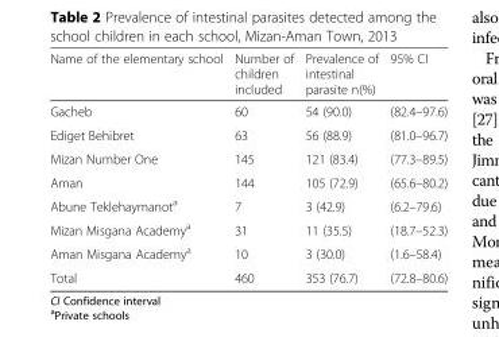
<table><thead><tr><td>Name of the elementary school</td><td>Number of children included</td><td>Prevalence of intestinal parasite n(%)</td><td>95% CI</td></tr></thead><tbody><tr><td>Gacheb</td><td>60</td><td>54 (90.0)</td><td>(82.4–97.6)</td></tr><tr><td>Ediget Behibret</td><td>63</td><td>56 (88.9)</td><td>(81.0–96.7)</td></tr><tr><td>Mizan Number One</td><td>145</td><td>121 (83.4)</td><td>(77.3–89.5)</td></tr><tr><td>Aman</td><td>144</td><td>105 (72.9)</td><td>(65.6–80.2)</td></tr><tr><td>Abune Teklehaymanot<sup>a</sup></td><td>7</td><td>3 (42.9)</td><td>(6.2–79.6)</td></tr><tr><td>Mizan Misgana Academy<sup>a</sup></td><td>31</td><td>11 (35.5)</td><td>(18.7–52.3)</td></tr><tr><td>Aman Misgana Academy<sup>a</sup></td><td>10</td><td>3 (30.0)</td><td>(1.6–58.4)</td></tr><tr><td>Total</td><td>460</td><td>353 (76.7)</td><td>(72.8–80.6)</td></tr></tbody></table>